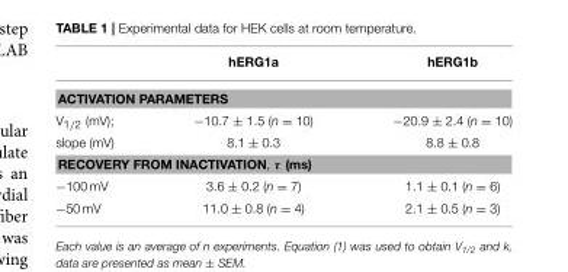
<table><thead><tr><td></td><td>hERG1a</td><td>hERG1b</td></tr></thead><tbody><tr><td colspan="3">ACTIVATION PARAMETERS</td></tr><tr><td>V<sub>1/2</sub> (mV);</td><td>−10.7 ± 1.5 (n = 10)</td><td>−20.9 ± 2.4 (n = 10)</td></tr><tr><td>slope (mV)</td><td>8.1 ± 0.3</td><td>8.8 ± 0.8</td></tr><tr><td colspan="3">RECOVERY FROM INACTIVATION, τ (ms)</td></tr><tr><td>−100 mV</td><td>3.6 ± 0.2 (n = 7)</td><td>1.1 ± 0.1 (n = 6)</td></tr><tr><td>−50 mV</td><td>11.0 ± 0.8 (n = 4)</td><td>2.1 ± 0.5 (n = 3)</td></tr></tbody></table>